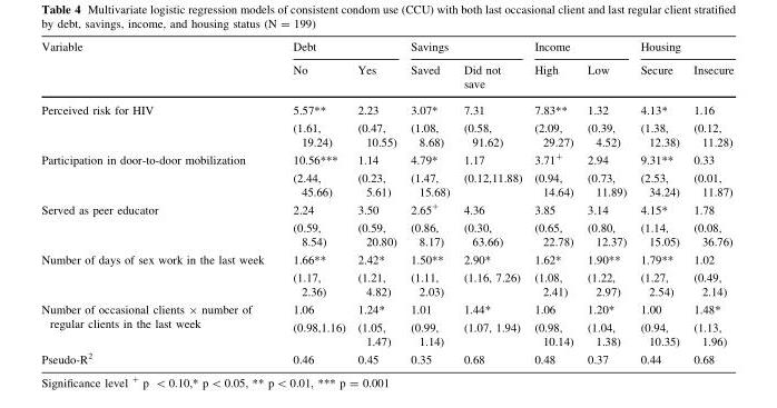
<table><thead><tr><td rowspan="2">Variable</td><td colspan="2">Debt</td><td colspan="2">Savings</td><td colspan="2">Income</td><td colspan="2">Housing</td></tr><tr><td>No</td><td>Yes</td><td>Saved</td><td>Did not save</td><td>High</td><td>Low</td><td>Secure</td><td>Insecure</td></tr></thead><tbody><tr><td>Perceived risk for HIV</td><td>5.57** (1.61, 19.24)</td><td>2.23 (0.47, 10.55)</td><td>3.07* (1.08, 8.68)</td><td>7.31 (0.58, 91.62)</td><td>7.83** (2.09, 29.27)</td><td>1.32 (0.39, 4.52)</td><td>4.13* (1.38, 12.38)</td><td>1.16 (0.12, 11.28)</td></tr><tr><td>Participation in door-to-door mobilization</td><td>10.56*** (2.44, 45.66)</td><td>1.14 (0.23, 5.61)</td><td>4.79* (1.47, 15.68)</td><td>1.17 (0.12,11.88)</td><td>3.71<sup>+</sup> (0.94, 14.64)</td><td>2.94 (0.73, 11.89)</td><td>9.31** (2.53, 34.24)</td><td>0.33 (0.01, 11.87)</td></tr><tr><td>Served as peer educator</td><td>2.24 (0.59, 8.54)</td><td>3.50 (0.59, 20.80)</td><td>2.65<sup>+</sup> (0.86, 8.17)</td><td>4.36 (0.30, 63.66)</td><td>3.85 (0.65, 22.78)</td><td>3.14 (0.80, 12.37)</td><td>4.15* (1.14, 15.05)</td><td>1.78 (0.08, 36.76)</td></tr><tr><td>Number of days of sex work in the last week</td><td>1.66** (1.17, 2.36)</td><td>2.42* (1.21, 4.82)</td><td>1.50** (1.11, 2.03)</td><td>2.90* (1.16, 7.26)</td><td>1.62* (1.08, 2.41)</td><td>1.90** (1.22, 2.97)</td><td>1.79** (1.27, 2.54)</td><td>1.02 (0.49, 2.14)</td></tr><tr><td>Number of occasional clients × number of regular clients in the last week</td><td>1.06 (0.98,1.16)</td><td>1.24* (1.05, 1.47)</td><td>1.01 (0.99, 1.14)</td><td>1.44* (1.07, 1.94)</td><td>1.06 (0.98, 10.14)</td><td>1.20* (1.04, 1.38)</td><td>1.00 (0.94, 10.35)</td><td>1.48* (1.13, 1.96)</td></tr><tr><td>Pseudo-R<sup>2</sup></td><td>0.46</td><td>0.45</td><td>0.35</td><td>0.68</td><td>0.48</td><td>0.37</td><td>0.44</td><td>0.68</td></tr></tbody></table>